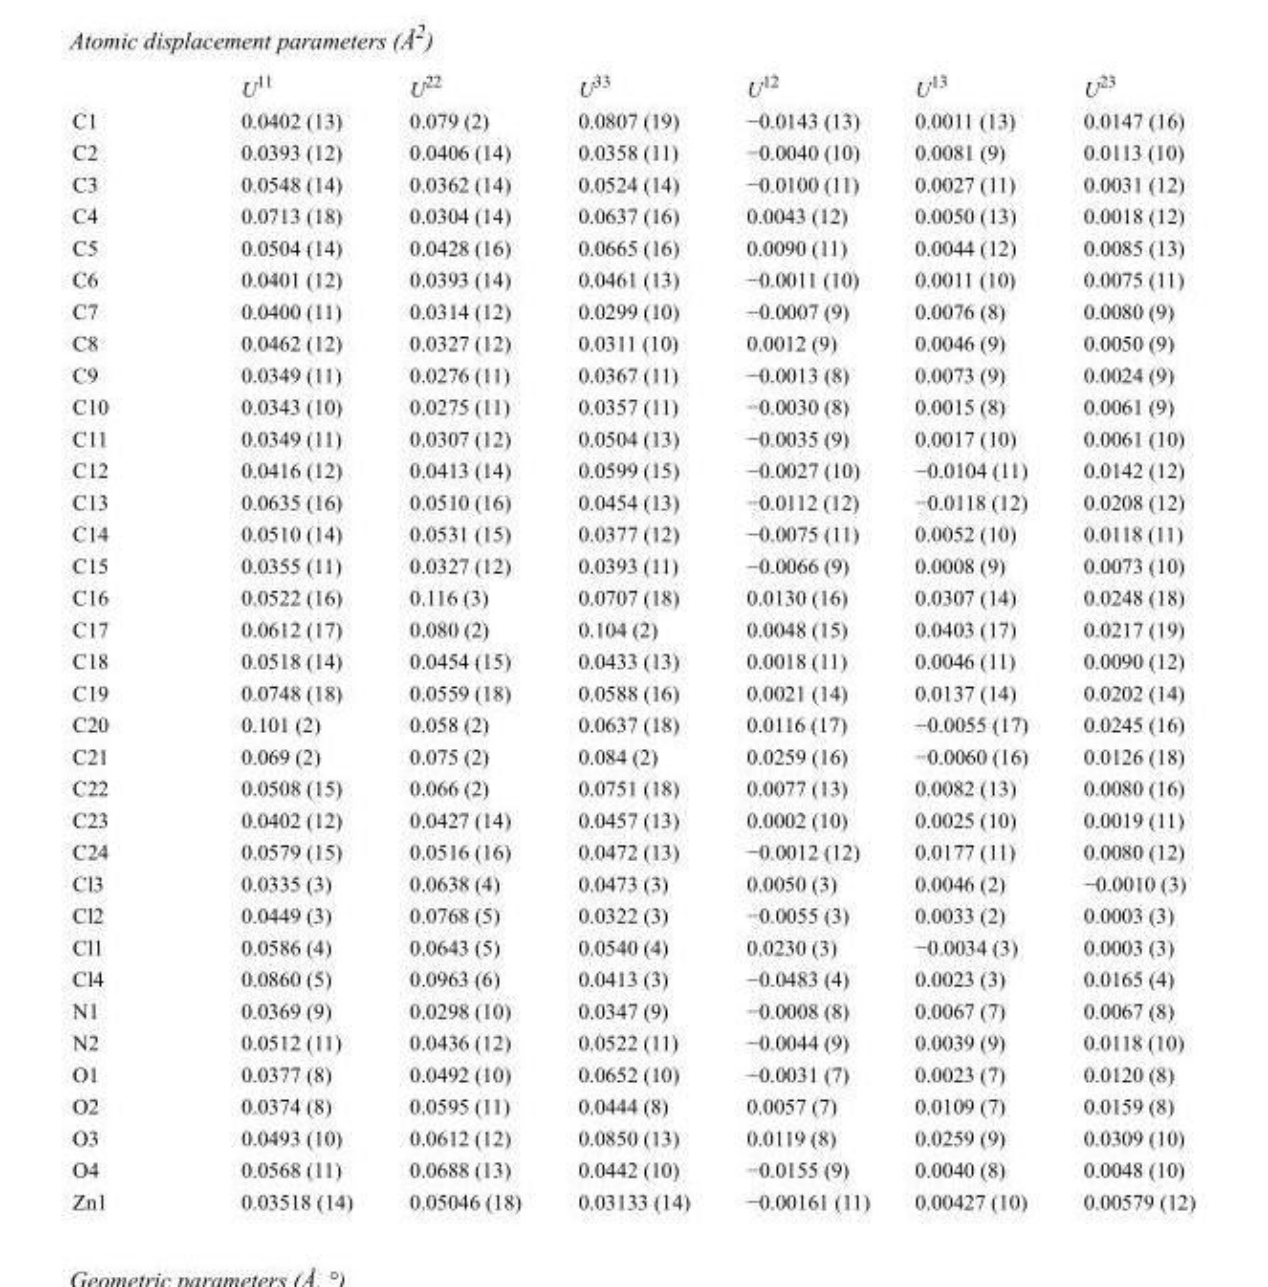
<table><thead><tr><td></td><td>U<sup>11</sup></td><td>U<sup>22</sup></td><td>U<sup>33</sup></td><td>U<sup>12</sup></td><td>U<sup>13</sup></td><td>U<sup>23</sup></td></tr></thead><tbody><tr><td>C1</td><td>0.0402 (13)</td><td>0.079 (2)</td><td>0.0807 (19)</td><td>−0.0143 (13)</td><td>0.0011 (13)</td><td>0.0147 (16)</td></tr><tr><td>C2</td><td>0.0393 (12)</td><td>0.0406 (14)</td><td>0.0358 (11)</td><td>−0.0040 (10)</td><td>0.0081 (9)</td><td>0.0113 (10)</td></tr><tr><td>C3</td><td>0.0548 (14)</td><td>0.0362 (14)</td><td>0.0524 (14)</td><td>−0.0100 (11)</td><td>0.0027 (11)</td><td>0.0031 (12)</td></tr><tr><td>C4</td><td>0.0713 (18)</td><td>0.0304 (14)</td><td>0.0637 (16)</td><td>0.0043 (12)</td><td>0.0050 (13)</td><td>0.0018 (12)</td></tr><tr><td>C5</td><td>0.0504 (14)</td><td>0.0428 (16)</td><td>0.0665 (16)</td><td>0.0090 (11)</td><td>0.0044 (12)</td><td>0.0085 (13)</td></tr><tr><td>C6</td><td>0.0401 (12)</td><td>0.0393 (14)</td><td>0.0461 (13)</td><td>−0.0011 (10)</td><td>0.0011 (10)</td><td>0.0075 (11)</td></tr><tr><td>C7</td><td>0.0400 (11)</td><td>0.0314 (12)</td><td>0.0299 (10)</td><td>−0.0007 (9)</td><td>0.0076 (8)</td><td>0.0080 (9)</td></tr><tr><td>C8</td><td>0.0462 (12)</td><td>0.0327 (12)</td><td>0.0311 (10)</td><td>0.0012 (9)</td><td>0.0046 (9)</td><td>0.0050 (9)</td></tr><tr><td>C9</td><td>0.0349 (11)</td><td>0.0276 (11)</td><td>0.0367 (11)</td><td>−0.0013 (8)</td><td>0.0073 (9)</td><td>0.0024 (9)</td></tr><tr><td>C10</td><td>0.0343 (10)</td><td>0.0275 (11)</td><td>0.0357 (11)</td><td>−0.0030 (8)</td><td>0.0015 (8)</td><td>0.0061 (9)</td></tr><tr><td>C11</td><td>0.0349 (11)</td><td>0.0307 (12)</td><td>0.0504 (13)</td><td>−0.0035 (9)</td><td>0.0017 (10)</td><td>0.0061 (10)</td></tr><tr><td>C12</td><td>0.0416 (12)</td><td>0.0413 (14)</td><td>0.0599 (15)</td><td>−0.0027 (10)</td><td>−0.0104 (11)</td><td>0.0142 (12)</td></tr><tr><td>C13</td><td>0.0635 (16)</td><td>0.0510 (16)</td><td>0.0454 (13)</td><td>−0.0112 (12)</td><td>−0.0118 (12)</td><td>0.0208 (12)</td></tr><tr><td>C14</td><td>0.0510 (14)</td><td>0.0531 (15)</td><td>0.0377 (12)</td><td>−0.0075 (11)</td><td>0.0052 (10)</td><td>0.0118 (11)</td></tr><tr><td>C15</td><td>0.0355 (11)</td><td>0.0327 (12)</td><td>0.0393 (11)</td><td>−0.0066 (9)</td><td>0.0008 (9)</td><td>0.0073 (10)</td></tr><tr><td>C16</td><td>0.0522 (16)</td><td>0.116 (3)</td><td>0.0707 (18)</td><td>0.0130 (16)</td><td>0.0307 (14)</td><td>0.0248 (18)</td></tr><tr><td>C17</td><td>0.0612 (17)</td><td>0.080 (2)</td><td>0.104 (2)</td><td>0.0048 (15)</td><td>0.0403 (17)</td><td>0.0217 (19)</td></tr><tr><td>C18</td><td>0.0518 (14)</td><td>0.0454 (15)</td><td>0.0433 (13)</td><td>0.0018 (11)</td><td>0.0046 (11)</td><td>0.0090 (12)</td></tr><tr><td>C19</td><td>0.0748 (18)</td><td>0.0559 (18)</td><td>0.0588 (16)</td><td>0.0021 (14)</td><td>0.0137 (14)</td><td>0.0202 (14)</td></tr><tr><td>C20</td><td>0.101 (2)</td><td>0.058 (2)</td><td>0.0637 (18)</td><td>0.0116 (17)</td><td>−0.0055 (17)</td><td>0.0245 (16)</td></tr><tr><td>C21</td><td>0.069 (2)</td><td>0.075 (2)</td><td>0.084 (2)</td><td>0.0259 (16)</td><td>−0.0060 (16)</td><td>0.0126 (18)</td></tr><tr><td>C22</td><td>0.0508 (15)</td><td>0.066 (2)</td><td>0.0751 (18)</td><td>0.0077 (13)</td><td>0.0082 (13)</td><td>0.0080 (16)</td></tr><tr><td>C23</td><td>0.0402 (12)</td><td>0.0427 (14)</td><td>0.0457 (13)</td><td>0.0002 (10)</td><td>0.0025 (10)</td><td>0.0019 (11)</td></tr><tr><td>C24</td><td>0.0579 (15)</td><td>0.0516 (16)</td><td>0.0472 (13)</td><td>−0.0012 (12)</td><td>0.0177 (11)</td><td>0.0080 (12)</td></tr><tr><td>Cl3</td><td>0.0335 (3)</td><td>0.0638 (4)</td><td>0.0473 (3)</td><td>0.0050 (3)</td><td>0.0046 (2)</td><td>−0.0010 (3)</td></tr><tr><td>Cl2</td><td>0.0449 (3)</td><td>0.0768 (5)</td><td>0.0322 (3)</td><td>−0.0055 (3)</td><td>0.0033 (2)</td><td>0.0003 (3)</td></tr><tr><td>Cl1</td><td>0.0586 (4)</td><td>0.0643 (5)</td><td>0.0540 (4)</td><td>0.0230 (3)</td><td>−0.0034 (3)</td><td>0.0003 (3)</td></tr><tr><td>Cl4</td><td>0.0860 (5)</td><td>0.0963 (6)</td><td>0.0413 (3)</td><td>−0.0483 (4)</td><td>0.0023 (3)</td><td>0.0165 (4)</td></tr><tr><td>N1</td><td>0.0369 (9)</td><td>0.0298 (10)</td><td>0.0347 (9)</td><td>−0.0008 (8)</td><td>0.0067 (7)</td><td>0.0067 (8)</td></tr><tr><td>N2</td><td>0.0512 (11)</td><td>0.0436 (12)</td><td>0.0522 (11)</td><td>−0.0044 (9)</td><td>0.0039 (9)</td><td>0.0118 (10)</td></tr><tr><td>O1</td><td>0.0377 (8)</td><td>0.0492 (10)</td><td>0.0652 (10)</td><td>−0.0031 (7)</td><td>0.0023 (7)</td><td>0.0120 (8)</td></tr><tr><td>O2</td><td>0.0374 (8)</td><td>0.0595 (11)</td><td>0.0444 (8)</td><td>0.0057 (7)</td><td>0.0109 (7)</td><td>0.0159 (8)</td></tr><tr><td>O3</td><td>0.0493 (10)</td><td>0.0612 (12)</td><td>0.0850 (13)</td><td>0.0119 (8)</td><td>0.0259 (9)</td><td>0.0309 (10)</td></tr><tr><td>O4</td><td>0.0568 (11)</td><td>0.0688 (13)</td><td>0.0442 (10)</td><td>−0.0155 (9)</td><td>0.0040 (8)</td><td>0.0048 (10)</td></tr><tr><td>Zn1</td><td>0.03518 (14)</td><td>0.05046 (18)</td><td>0.03133 (14)</td><td>−0.00161 (11)</td><td>0.00427 (10)</td><td>0.00579 (12)</td></tr></tbody></table>